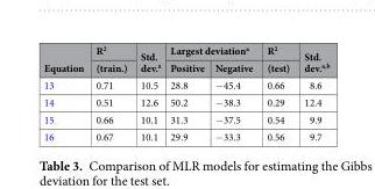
<table><thead><tr><td rowspan="2">Equation</td><td rowspan="2">R<sup>2</sup> (train.)</td><td rowspan="2">Std. dev.<sup>a</sup></td><td colspan="2">Largest deviation<sup>a</sup></td><td rowspan="2">R<sup>2</sup> (test)</td><td rowspan="2">Std. dev.<sup>a,b</sup></td></tr><tr><td>Positive</td><td>Negative</td></tr></thead><tbody><tr><td>13</td><td>0.71</td><td>10.5</td><td>28.8</td><td>−45.4</td><td>0.66</td><td>8.6</td></tr><tr><td>14</td><td>0.51</td><td>12.6</td><td>50.2</td><td>−38.3</td><td>0.29</td><td>12.4</td></tr><tr><td>15</td><td>0.66</td><td>10.1</td><td>31.3</td><td>−37.5</td><td>0.54</td><td>9.9</td></tr><tr><td>16</td><td>0.67</td><td>10.1</td><td>29.9</td><td>−33.3</td><td>0.56</td><td>9.7</td></tr></tbody></table>